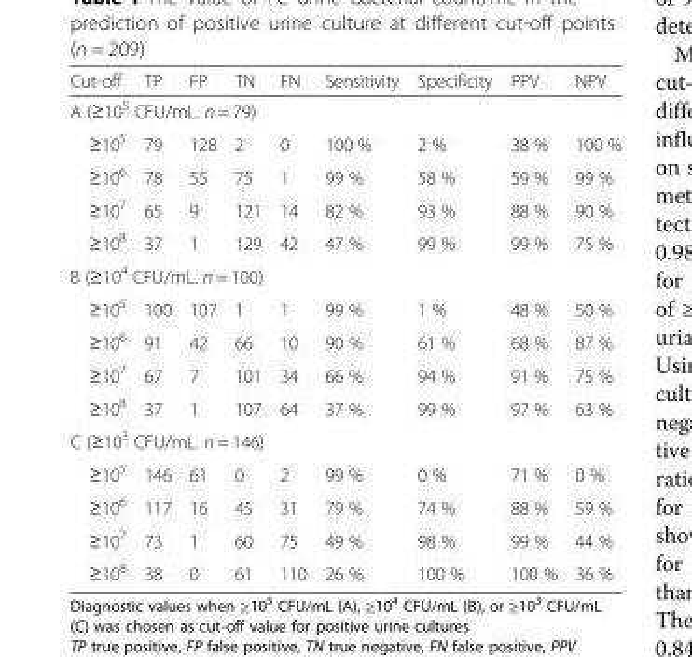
<table><thead><tr><td>Cut-off</td><td>TP</td><td>FP</td><td>TN</td><td>FN</td><td>Sensitivity</td><td>Specificity</td><td>PPV</td><td>NPV</td></tr></thead><tbody><tr><td colspan="9">A (≥10<sup>5</sup> CFU/mL. n = 79)</td></tr><tr><td>≥10<sup>5</sup></td><td>79</td><td>128</td><td>2</td><td>0</td><td>100 %</td><td>2 %</td><td>38 %</td><td>100 %</td></tr><tr><td>≥10<sup>6</sup></td><td>78</td><td>55</td><td>75</td><td>1</td><td>99 %</td><td>58 %</td><td>59 %</td><td>99 %</td></tr><tr><td>≥10<sup>7</sup></td><td>65</td><td>9</td><td>121</td><td>14</td><td>82 %</td><td>93 %</td><td>88 %</td><td>90 %</td></tr><tr><td>≥10<sup>8</sup></td><td>37</td><td>1</td><td>129</td><td>42</td><td>47 %</td><td>99 %</td><td>99 %</td><td>75 %</td></tr><tr><td colspan="9">B (≥10<sup>4</sup> CFU/mL. n = 100)</td></tr><tr><td>≥10<sup>5</sup></td><td>100</td><td>107</td><td>1</td><td>1</td><td>99 %</td><td>1 %</td><td>48 %</td><td>50 %</td></tr><tr><td>≥10<sup>6</sup></td><td>91</td><td>42</td><td>66</td><td>10</td><td>90 %</td><td>61 %</td><td>68 %</td><td>87 %</td></tr><tr><td>≥10<sup>7</sup></td><td>67</td><td>7</td><td>101</td><td>34</td><td>66 %</td><td>94 %</td><td>91 %</td><td>75 %</td></tr><tr><td>≥10<sup>8</sup></td><td>37</td><td>1</td><td>107</td><td>64</td><td>37 %</td><td>99 %</td><td>97 %</td><td>63 %</td></tr><tr><td colspan="9">C (≥10<sup>3</sup> CFU/mL. n = 146)</td></tr><tr><td>≥10<sup>5</sup></td><td>146</td><td>61</td><td>0</td><td>2</td><td>99 %</td><td>0 %</td><td>71 %</td><td>0 %</td></tr><tr><td>≥10<sup>6</sup></td><td>117</td><td>16</td><td>45</td><td>31</td><td>79 %</td><td>74 %</td><td>88 %</td><td>59 %</td></tr><tr><td>≥10<sup>7</sup></td><td>73</td><td>1</td><td>60</td><td>75</td><td>49 %</td><td>98 %</td><td>99 %</td><td>44 %</td></tr><tr><td>≥10<sup>8</sup></td><td>38</td><td>0</td><td>61</td><td>110</td><td>26 %</td><td>100 %</td><td>100 %</td><td>36 %</td></tr></tbody></table>